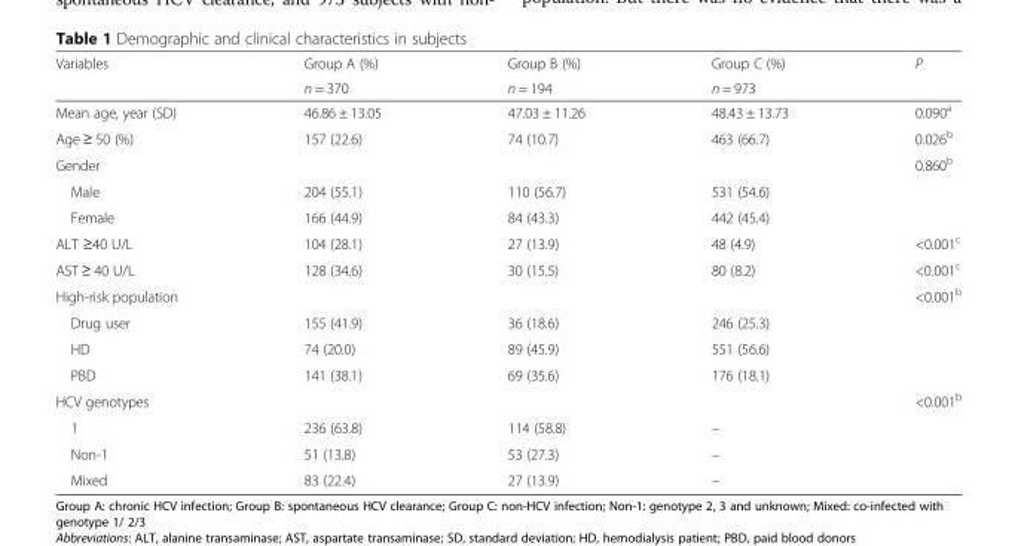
<table><thead><tr><td rowspan="2">Variables</td><td rowspan="2">Group A (%) n = 370</td><td rowspan="2">Group B (%) n = 194</td><td rowspan="2">Group C (%) n = 973</td><td rowspan="2">P</td></tr><tr></tr></thead><tbody><tr><td>Mean age, year (SD)</td><td>46.86 ± 13.05</td><td>47.03 ± 11.26</td><td>48.43 ± 13.73</td><td>0.090<sup>a</sup></td></tr><tr><td>Age ≥ 50 (%)</td><td>157 (22.6)</td><td>74 (10.7)</td><td>463 (66.7)</td><td>0.026<sup>b</sup></td></tr><tr><td>Gender</td><td></td><td></td><td></td><td>0.860<sup>b</sup></td></tr><tr><td>Male</td><td>204 (55.1)</td><td>110 (56.7)</td><td>531 (54.6)</td><td></td></tr><tr><td>Female</td><td>166 (44.9)</td><td>84 (43.3)</td><td>442 (45.4)</td><td></td></tr><tr><td>ALT ≥40 U/L</td><td>104 (28.1)</td><td>27 (13.9)</td><td>48 (4.9)</td><td>&lt;0.001<sup>c</sup></td></tr><tr><td>AST ≥ 40 U/L</td><td>128 (34.6)</td><td>30 (15.5)</td><td>80 (8.2)</td><td>&lt;0.001<sup>c</sup></td></tr><tr><td>High-risk population</td><td></td><td></td><td></td><td>&lt;0.001<sup>b</sup></td></tr><tr><td>Drug user</td><td>155 (41.9)</td><td>36 (18.6)</td><td>246 (25.3)</td><td></td></tr><tr><td>HD</td><td>74 (20.0)</td><td>89 (45.9)</td><td>551 (56.6)</td><td></td></tr><tr><td>PBD</td><td>141 (38.1)</td><td>69 (35.6)</td><td>176 (18.1)</td><td></td></tr><tr><td>HCV genotypes</td><td></td><td></td><td></td><td>&lt;0.001<sup>b</sup></td></tr><tr><td>1</td><td>236 (63.8)</td><td>114 (58.8)</td><td>–</td><td></td></tr><tr><td>Non-1</td><td>51 (13.8)</td><td>53 (27.3)</td><td>–</td><td></td></tr><tr><td>Mixed</td><td>83 (22.4)</td><td>27 (13.9)</td><td>–</td><td></td></tr></tbody></table>